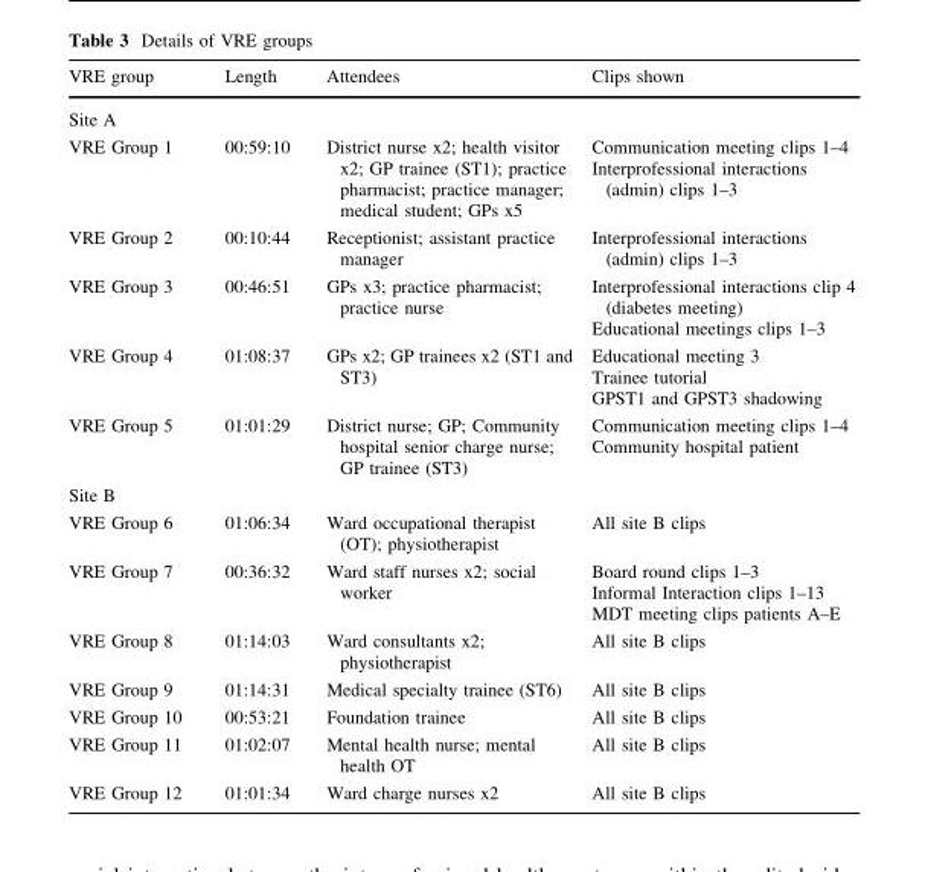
<table><thead><tr><td>VRE group</td><td>Length</td><td>Attendees</td><td>Clips shown</td></tr></thead><tbody><tr><td colspan="4">Site A</td></tr><tr><td>VRE Group 1</td><td>00:59:10</td><td>District nurse x2; health visitor x2; GP trainee (ST1); practice pharmacist; practice manager; medical student; GPs x5</td><td>Communication meeting clips 1–4 Interprofessional interactions (admin) clips 1–3</td></tr><tr><td>VRE Group 2</td><td>00:10:44</td><td>Receptionist; assistant practice manager</td><td>Interprofessional interactions (admin) clips 1–3</td></tr><tr><td>VRE Group 3</td><td>00:46:51</td><td>GPs x3; practice pharmacist; practice nurse</td><td>Interprofessional interactions clip 4 (diabetes meeting) Educational meetings clips 1–3</td></tr><tr><td>VRE Group 4</td><td>01:08:37</td><td>GPs x2; GP trainees x2 (ST1 and ST3)</td><td>Educational meeting 3 Trainee tutorial GPST1 and GPST3 shadowing</td></tr><tr><td>VRE Group 5</td><td>01:01:29</td><td>District nurse; GP; Community hospital senior charge nurse; GP trainee (ST3)</td><td>Communication meeting clips 1–4 Community hospital patient</td></tr><tr><td colspan="4">Site B</td></tr><tr><td>VRE Group 6</td><td>01:06:34</td><td>Ward occupational therapist (OT); physiotherapist</td><td>All site B clips</td></tr><tr><td>VRE Group 7</td><td>00:36:32</td><td>Ward staff nurses x2; social worker</td><td>Board round clips 1–3 Informal Interaction clips 1–13 MDT meeting clips patients A–E</td></tr><tr><td>VRE Group 8</td><td>01:14:03</td><td>Ward consultants x2; physiotherapist</td><td>All site B clips</td></tr><tr><td>VRE Group 9</td><td>01:14:31</td><td>Medical specialty trainee (ST6)</td><td>All site B clips</td></tr><tr><td>VRE Group 10</td><td>00:53:21</td><td>Foundation trainee</td><td>All site B clips</td></tr><tr><td>VRE Group 11</td><td>01:02:07</td><td>Mental health nurse; mental health OT</td><td>All site B clips</td></tr><tr><td>VRE Group 12</td><td>01:01:34</td><td>Ward charge nurses x2</td><td>All site B clips</td></tr></tbody></table>